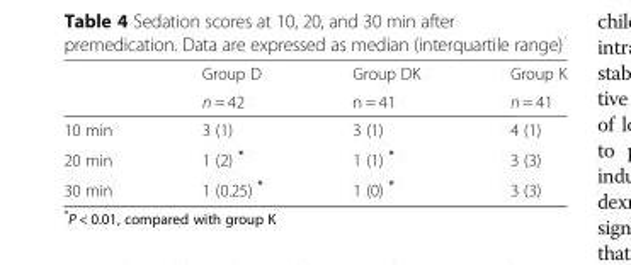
<table><thead><tr><td rowspan="2"></td><td rowspan="2">Group D n = 42</td><td rowspan="2">Group DK n = 41</td><td rowspan="2">Group K n = 41</td></tr><tr></tr></thead><tbody><tr><td>10 min</td><td>3 (1)</td><td>3 (1)</td><td>4 (1)</td></tr><tr><td>20 min</td><td>1 (2) *</td><td>1 (1) *</td><td>3 (3)</td></tr><tr><td>30 min</td><td>1 (0.25) *</td><td>1 (0) *</td><td>3 (3)</td></tr></tbody></table>